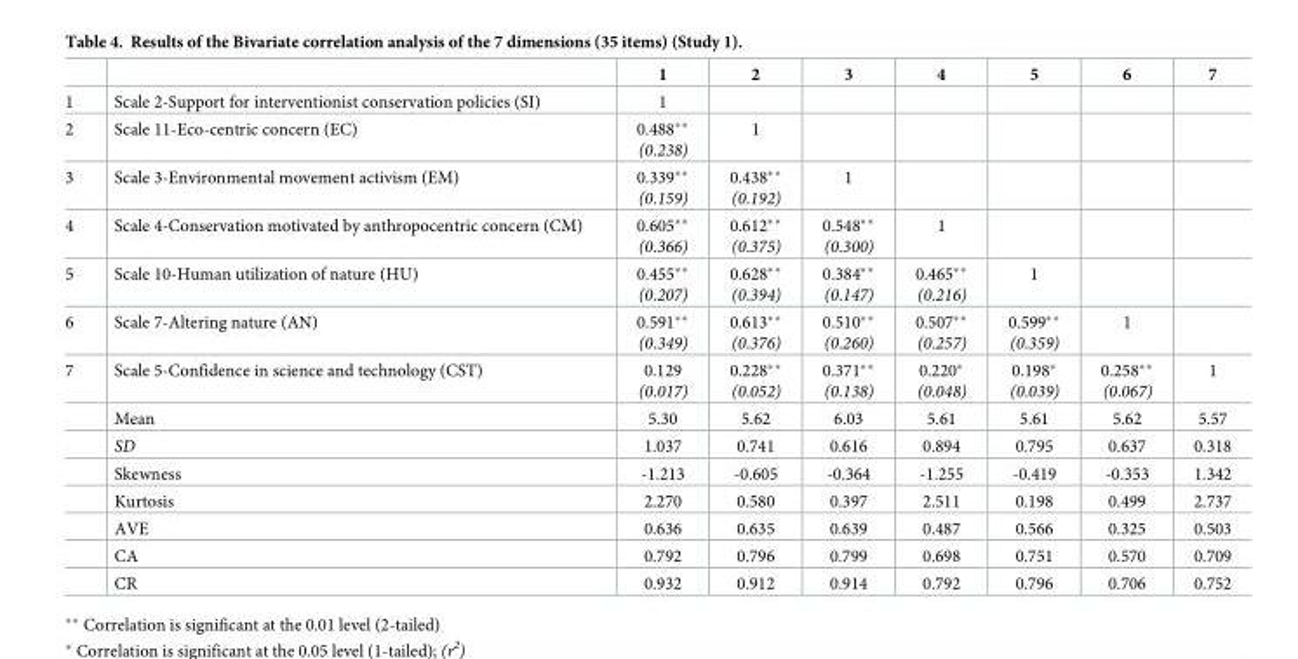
<table><thead><tr><td></td><td></td><td>1</td><td>2</td><td>3</td><td>4</td><td>5</td><td>6</td><td>7</td></tr></thead><tbody><tr><td>1</td><td>Scale 2-Support for interventionist conservation policies (SI)</td><td>1</td><td></td><td></td><td></td><td></td><td></td><td></td></tr><tr><td>2</td><td>Scale 11-Eco-centric concern (EC)</td><td>0.488** (0.238)</td><td>1</td><td></td><td></td><td></td><td></td><td></td></tr><tr><td>3</td><td>Scale 3-Environmental movement activism (EM)</td><td>0.339** (0.159)</td><td>0.438** (0.192)</td><td>1</td><td></td><td></td><td></td><td></td></tr><tr><td>4</td><td>Scale 4-Conservation motivated by anthropocentric concern (CM)</td><td>0.605** (0.366)</td><td>0.612** (0.375)</td><td>0.548** (0.300)</td><td>1</td><td></td><td></td><td></td></tr><tr><td>5</td><td>Scale 10-Human utilization of nature (HU)</td><td>0.455** (0.207)</td><td>0.628** (0.394)</td><td>0.384** (0.147)</td><td>0.465** (0.216)</td><td>1</td><td></td><td></td></tr><tr><td>6</td><td>Scale 7-Altering nature (AN)</td><td>0.591** (0.349)</td><td>0.613** (0.376)</td><td>0.510** (0.260)</td><td>0.507** (0.257)</td><td>0.599** (0.359)</td><td>1</td><td></td></tr><tr><td rowspan="8">7</td><td>Scale 5-Confidence in science and technology (CST)</td><td>0.129 (0.017)</td><td>0.228** (0.052)</td><td>0.371** (0.138)</td><td>0.220* (0.048)</td><td>0.198* (0.039)</td><td>0.258** (0.067)</td><td>1</td></tr><tr><td>Mean</td><td>5.30</td><td>5.62</td><td>6.03</td><td>5.61</td><td>5.61</td><td>5.62</td><td>5.57</td></tr><tr><td>SD</td><td>1.037</td><td>0.741</td><td>0.616</td><td>0.894</td><td>0.795</td><td>0.637</td><td>0.318</td></tr><tr><td>Skewness</td><td>-1.213</td><td>-0.605</td><td>-0.364</td><td>-1.255</td><td>-0.419</td><td>-0.353</td><td>1.342</td></tr><tr><td>Kurtosis</td><td>2.270</td><td>0.580</td><td>0.397</td><td>2.511</td><td>0.198</td><td>0.499</td><td>2.737</td></tr><tr><td>AVE</td><td>0.636</td><td>0.635</td><td>0.639</td><td>0.487</td><td>0.566</td><td>0.325</td><td>0.503</td></tr><tr><td>CA</td><td>0.792</td><td>0.796</td><td>0.799</td><td>0.698</td><td>0.751</td><td>0.570</td><td>0.709</td></tr><tr><td>CR</td><td>0.932</td><td>0.912</td><td>0.914</td><td>0.792</td><td>0.796</td><td>0.706</td><td>0.752</td></tr></tbody></table>